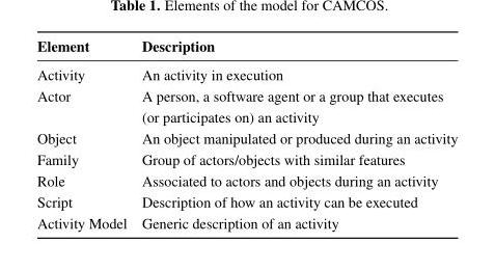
<table><thead><tr><td>Element</td><td>Description</td></tr></thead><tbody><tr><td>Activity</td><td>An activity in execution</td></tr><tr><td>Actor</td><td>A person, a software agent or a group that executes (or participates on) an activity</td></tr><tr><td>Object</td><td>An object manipulated or produced during an activity</td></tr><tr><td>Family</td><td>Group of actors/objects with similar features</td></tr><tr><td>Role</td><td>Associated to actors and objects during an activity</td></tr><tr><td>Script</td><td>Description of how an activity can be executed</td></tr><tr><td>Activity Model</td><td>Generic description of an activity</td></tr></tbody></table>